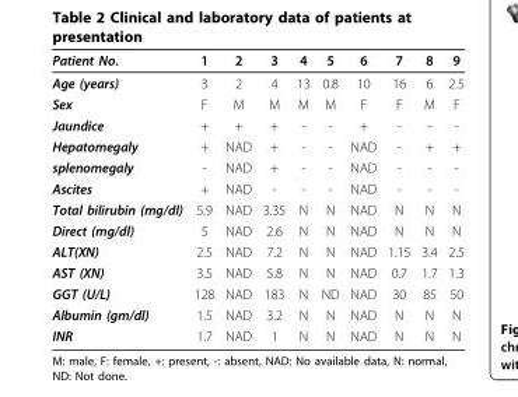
<table><thead><tr><td>Patient No.</td><td>1</td><td>2</td><td>3</td><td>4</td><td>5</td><td>6</td><td>7</td><td>8</td><td>9</td></tr></thead><tbody><tr><td>Age (years)</td><td>3</td><td>2</td><td>4</td><td>13</td><td>0.8</td><td>10</td><td>16</td><td>6</td><td>2.5</td></tr><tr><td>Sex</td><td>F</td><td>M</td><td>M</td><td>M</td><td>M</td><td>F</td><td>F</td><td>M</td><td>F</td></tr><tr><td>Jaundice</td><td>+</td><td>+</td><td>+</td><td>-</td><td>-</td><td>+</td><td>-</td><td>-</td><td>-</td></tr><tr><td>Hepatomegaly</td><td>+</td><td>NAD</td><td>+</td><td>-</td><td>-</td><td>NAD</td><td>-</td><td>+</td><td>+</td></tr><tr><td>splenomegaly</td><td>-</td><td>NAD</td><td>+</td><td>-</td><td>-</td><td>NAD</td><td>-</td><td>-</td><td>-</td></tr><tr><td>Ascites</td><td>+</td><td>NAD</td><td>-</td><td>-</td><td>-</td><td>NAD</td><td>-</td><td>-</td><td>-</td></tr><tr><td>Total bilirubin (mg/dl)</td><td>5.9</td><td>NAD</td><td>3.35</td><td>N</td><td>N</td><td>NAD</td><td>N</td><td>N</td><td>N</td></tr><tr><td>Direct (mg/dl)</td><td>5</td><td>NAD</td><td>2.6</td><td>N</td><td>N</td><td>NAD</td><td>N</td><td>N</td><td>N</td></tr><tr><td>ALT(XN)</td><td>2.5</td><td>NAD</td><td>7.2</td><td>N</td><td>N</td><td>NAD</td><td>1.15</td><td>3.4</td><td>2.5</td></tr><tr><td>AST (XN)</td><td>3.5</td><td>NAD</td><td>5.8</td><td>N</td><td>N</td><td>NAD</td><td>0.7</td><td>1.7</td><td>1.3</td></tr><tr><td>GGT (U/L)</td><td>128</td><td>NAD</td><td>183</td><td>N</td><td>ND</td><td>NAD</td><td>30</td><td>85</td><td>50</td></tr><tr><td>Albumin (gm/dl)</td><td>1.5</td><td>NAD</td><td>3.2</td><td>N</td><td>N</td><td>NAD</td><td>N</td><td>N</td><td>N</td></tr><tr><td>INR</td><td>1.7</td><td>NAD</td><td>1</td><td>N</td><td>N</td><td>NAD</td><td>N</td><td>N</td><td>N</td></tr></tbody></table>